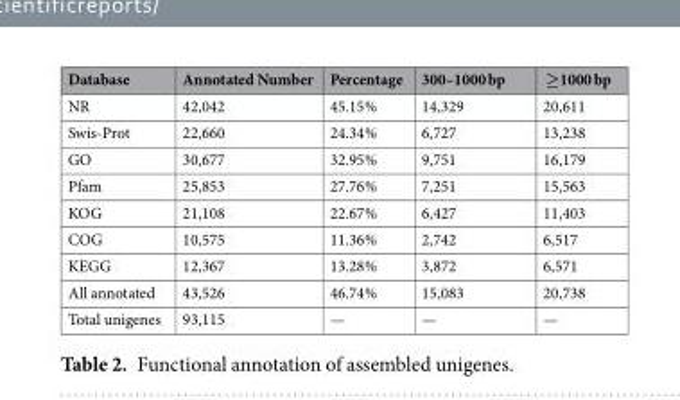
<table><thead><tr><td>Database</td><td>Annotated Number</td><td>Percentage</td><td>300–1000 bp</td><td>≥1000 bp</td></tr></thead><tbody><tr><td>NR</td><td>42,042</td><td>45.15%</td><td>14,329</td><td>20,611</td></tr><tr><td>Swis-Prot</td><td>22,660</td><td>24.34%</td><td>6,727</td><td>13,238</td></tr><tr><td>GO</td><td>30,677</td><td>32.95%</td><td>9,751</td><td>16,179</td></tr><tr><td>Pfam</td><td>25,853</td><td>27.76%</td><td>7,251</td><td>15,563</td></tr><tr><td>KOG</td><td>21,108</td><td>22.67%</td><td>6,427</td><td>11,403</td></tr><tr><td>COG</td><td>10,575</td><td>11.36%</td><td>2,742</td><td>6,517</td></tr><tr><td>KEGG</td><td>12,367</td><td>13.28%</td><td>3,872</td><td>6,571</td></tr><tr><td>All annotated</td><td>43,526</td><td>46.74%</td><td>15,083</td><td>20,738</td></tr><tr><td>Total unigenes</td><td>93,115</td><td>—</td><td>—</td><td>—</td></tr></tbody></table>